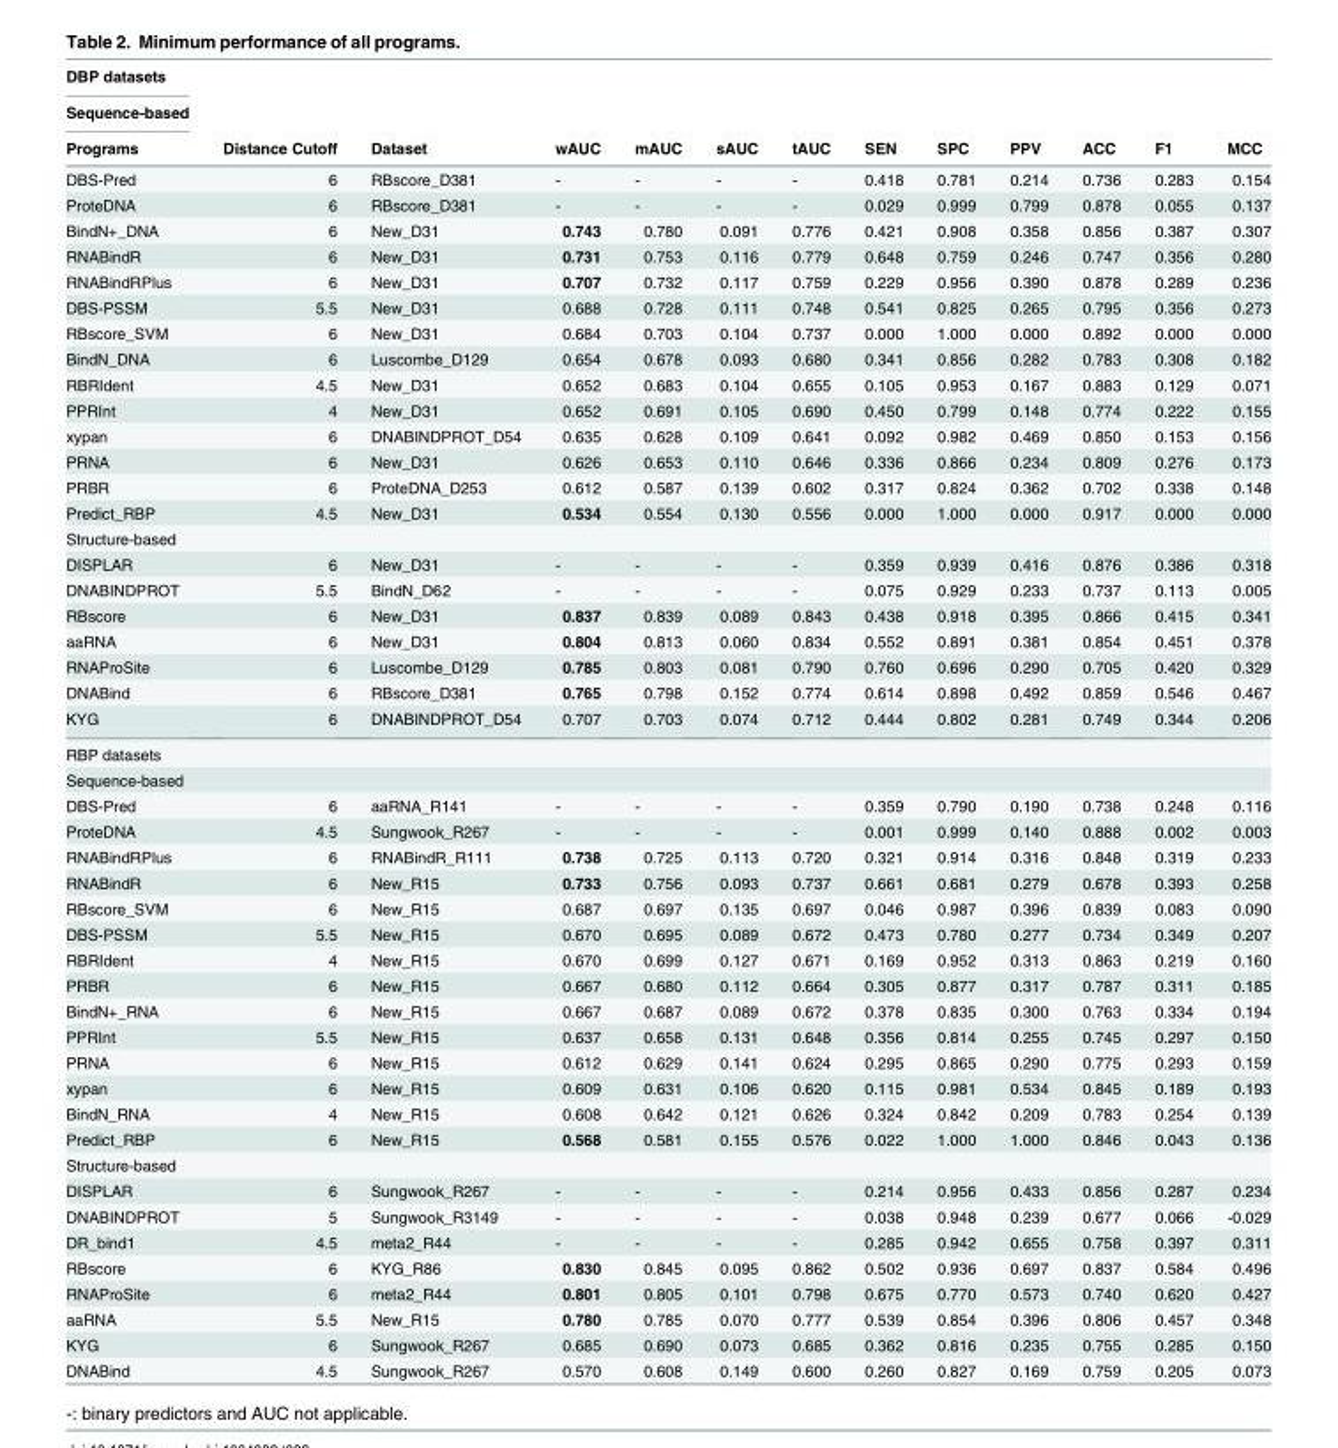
<table><thead><tr><td rowspan="3">DBP datasets Sequence-based Programs</td><td rowspan="3">Distance Cutoff</td><td rowspan="3">Dataset</td><td rowspan="3">wAUC</td><td rowspan="3">mAUC</td><td rowspan="3">sAUC</td><td rowspan="3">tAUC</td><td rowspan="3">SEN</td><td rowspan="3">SPC</td><td rowspan="3">PPV</td><td rowspan="3">ACC</td><td rowspan="3">F1</td><td rowspan="3">MCC</td></tr><tr></tr><tr></tr></thead><tbody><tr><td>DBS-Pred</td><td>6</td><td>RBscore_D381</td><td>-</td><td>-</td><td>-</td><td>-</td><td>0.418</td><td>0.781</td><td>0.214</td><td>0.736</td><td>0.283</td><td>0.154</td></tr><tr><td>ProteDNA</td><td>6</td><td>RBscore_D381</td><td>-</td><td>-</td><td>-</td><td>-</td><td>0.029</td><td>0.999</td><td>0.799</td><td>0.878</td><td>0.055</td><td>0.137</td></tr><tr><td>BindN+_DNA</td><td>6</td><td>New_D31</td><td>0.743</td><td>0.780</td><td>0.091</td><td>0.776</td><td>0.421</td><td>0.908</td><td>0.358</td><td>0.856</td><td>0.387</td><td>0.307</td></tr><tr><td>RNABindR</td><td>6</td><td>New_D31</td><td>0.731</td><td>0.753</td><td>0.116</td><td>0.779</td><td>0.648</td><td>0.759</td><td>0.246</td><td>0.747</td><td>0.356</td><td>0.280</td></tr><tr><td>RNABindRPlus</td><td>6</td><td>New_D31</td><td>0.707</td><td>0.732</td><td>0.117</td><td>0.759</td><td>0.229</td><td>0.956</td><td>0.390</td><td>0.878</td><td>0.289</td><td>0.236</td></tr><tr><td>DBS-PSSM</td><td>5.5</td><td>New_D31</td><td>0.688</td><td>0.728</td><td>0.111</td><td>0.748</td><td>0.541</td><td>0.825</td><td>0.265</td><td>0.795</td><td>0.356</td><td>0.273</td></tr><tr><td>RBscore_SVM</td><td>6</td><td>New_D31</td><td>0.684</td><td>0.703</td><td>0.104</td><td>0.737</td><td>0.000</td><td>1.000</td><td>0.000</td><td>0.892</td><td>0.000</td><td>0.000</td></tr><tr><td>BindN_DNA</td><td>6</td><td>Luscombe_D129</td><td>0.654</td><td>0.678</td><td>0.093</td><td>0.680</td><td>0.341</td><td>0.856</td><td>0.282</td><td>0.783</td><td>0.308</td><td>0.182</td></tr><tr><td>RBRIdent</td><td>4.5</td><td>New_D31</td><td>0.652</td><td>0.683</td><td>0.104</td><td>0.655</td><td>0.105</td><td>0.953</td><td>0.167</td><td>0.883</td><td>0.129</td><td>0.071</td></tr><tr><td>PPRInt</td><td>4</td><td>New_D31</td><td>0.652</td><td>0.691</td><td>0.105</td><td>0.690</td><td>0.450</td><td>0.799</td><td>0.148</td><td>0.774</td><td>0.222</td><td>0.155</td></tr><tr><td>xypan</td><td>6</td><td>DNABINDPROT_D54</td><td>0.635</td><td>0.628</td><td>0.109</td><td>0.641</td><td>0.092</td><td>0.982</td><td>0.469</td><td>0.850</td><td>0.153</td><td>0.156</td></tr><tr><td>PRNA</td><td>6</td><td>New_D31</td><td>0.626</td><td>0.653</td><td>0.110</td><td>0.646</td><td>0.336</td><td>0.866</td><td>0.234</td><td>0.809</td><td>0.276</td><td>0.173</td></tr><tr><td>PRBR</td><td>6</td><td>ProteDNA_D253</td><td>0.612</td><td>0.587</td><td>0.139</td><td>0.602</td><td>0.317</td><td>0.824</td><td>0.362</td><td>0.702</td><td>0.338</td><td>0.148</td></tr><tr><td>Predict_RBP</td><td>4.5</td><td>New_D31</td><td>0.534</td><td>0.554</td><td>0.130</td><td>0.556</td><td>0.000</td><td>1.000</td><td>0.000</td><td>0.917</td><td>0.000</td><td>0.000</td></tr><tr><td colspan="13">Structure-based</td></tr><tr><td>DISPLAR</td><td>6</td><td>New_D31</td><td>-</td><td>-</td><td>-</td><td>-</td><td>0.359</td><td>0.939</td><td>0.416</td><td>0.876</td><td>0.386</td><td>0.318</td></tr><tr><td>DNABINDPROT</td><td>5.5</td><td>BindN_D62</td><td>-</td><td>-</td><td>-</td><td>-</td><td>0.075</td><td>0.929</td><td>0.233</td><td>0.737</td><td>0.113</td><td>0.005</td></tr><tr><td>RBscore</td><td>6</td><td>New_D31</td><td>0.837</td><td>0.839</td><td>0.089</td><td>0.843</td><td>0.438</td><td>0.918</td><td>0.395</td><td>0.866</td><td>0.415</td><td>0.341</td></tr><tr><td>aaRNA</td><td>6</td><td>New_D31</td><td>0.804</td><td>0.813</td><td>0.060</td><td>0.834</td><td>0.552</td><td>0.891</td><td>0.381</td><td>0.854</td><td>0.451</td><td>0.378</td></tr><tr><td>RNAProSite</td><td>6</td><td>Luscombe_D129</td><td>0.785</td><td>0.803</td><td>0.081</td><td>0.790</td><td>0.760</td><td>0.696</td><td>0.290</td><td>0.705</td><td>0.420</td><td>0.329</td></tr><tr><td>DNABind</td><td>6</td><td>RBscore_D381</td><td>0.765</td><td>0.798</td><td>0.152</td><td>0.774</td><td>0.614</td><td>0.898</td><td>0.492</td><td>0.859</td><td>0.546</td><td>0.467</td></tr><tr><td>KYG</td><td>6</td><td>DNABINDPROT_D54</td><td>0.707</td><td>0.703</td><td>0.074</td><td>0.712</td><td>0.444</td><td>0.802</td><td>0.281</td><td>0.749</td><td>0.344</td><td>0.206</td></tr><tr><td colspan="13">RBP datasets</td></tr><tr><td colspan="13">Sequence-based</td></tr><tr><td>DBS-Pred</td><td>6</td><td>aaRNA_R141</td><td>-</td><td>-</td><td>-</td><td>-</td><td>0.359</td><td>0.790</td><td>0.190</td><td>0.738</td><td>0.248</td><td>0.116</td></tr><tr><td>ProteDNA</td><td>4.5</td><td>Sungwook_R267</td><td>-</td><td>-</td><td>-</td><td>-</td><td>0.001</td><td>0.999</td><td>0.140</td><td>0.888</td><td>0.002</td><td>0.003</td></tr><tr><td>RNABindRPlus</td><td>6</td><td>RNABindR_R111</td><td>0.738</td><td>0.725</td><td>0.113</td><td>0.720</td><td>0.321</td><td>0.914</td><td>0.316</td><td>0.848</td><td>0.319</td><td>0.233</td></tr><tr><td>RNABindR</td><td>6</td><td>New_R15</td><td>0.733</td><td>0.756</td><td>0.093</td><td>0.737</td><td>0.661</td><td>0.681</td><td>0.279</td><td>0.678</td><td>0.393</td><td>0.258</td></tr><tr><td>RBscore_SVM</td><td>6</td><td>New_R15</td><td>0.687</td><td>0.697</td><td>0.135</td><td>0.697</td><td>0.046</td><td>0.987</td><td>0.396</td><td>0.839</td><td>0.083</td><td>0.090</td></tr><tr><td>DBS-PSSM</td><td>5.5</td><td>New_R15</td><td>0.670</td><td>0.695</td><td>0.089</td><td>0.672</td><td>0.473</td><td>0.780</td><td>0.277</td><td>0.734</td><td>0.349</td><td>0.207</td></tr><tr><td>RBRIdent</td><td>4</td><td>New_R15</td><td>0.670</td><td>0.699</td><td>0.127</td><td>0.671</td><td>0.169</td><td>0.952</td><td>0.313</td><td>0.863</td><td>0.219</td><td>0.160</td></tr><tr><td>PRBR</td><td>6</td><td>New_R15</td><td>0.667</td><td>0.680</td><td>0.112</td><td>0.664</td><td>0.305</td><td>0.877</td><td>0.317</td><td>0.787</td><td>0.311</td><td>0.185</td></tr><tr><td>BindN+_RNA</td><td>6</td><td>New_R15</td><td>0.667</td><td>0.687</td><td>0.089</td><td>0.672</td><td>0.378</td><td>0.835</td><td>0.300</td><td>0.763</td><td>0.334</td><td>0.194</td></tr><tr><td>PPRInt</td><td>5.5</td><td>New_R15</td><td>0.637</td><td>0.658</td><td>0.131</td><td>0.648</td><td>0.356</td><td>0.814</td><td>0.255</td><td>0.745</td><td>0.297</td><td>0.150</td></tr><tr><td>PRNA</td><td>6</td><td>New_R15</td><td>0.612</td><td>0.629</td><td>0.141</td><td>0.624</td><td>0.295</td><td>0.865</td><td>0.290</td><td>0.775</td><td>0.293</td><td>0.159</td></tr><tr><td>xypan</td><td>6</td><td>New_R15</td><td>0.609</td><td>0.631</td><td>0.106</td><td>0.620</td><td>0.115</td><td>0.981</td><td>0.534</td><td>0.845</td><td>0.189</td><td>0.193</td></tr><tr><td>BindN_RNA</td><td>4</td><td>New_R15</td><td>0.608</td><td>0.642</td><td>0.121</td><td>0.626</td><td>0.324</td><td>0.842</td><td>0.209</td><td>0.783</td><td>0.254</td><td>0.139</td></tr><tr><td>Predict_RBP</td><td>6</td><td>New_R15</td><td>0.568</td><td>0.581</td><td>0.155</td><td>0.576</td><td>0.022</td><td>1.000</td><td>1.000</td><td>0.846</td><td>0.043</td><td>0.136</td></tr><tr><td colspan="13">Structure-based</td></tr><tr><td>DISPLAR</td><td>6</td><td>Sungwook_R267</td><td>-</td><td>-</td><td>-</td><td>-</td><td>0.214</td><td>0.956</td><td>0.433</td><td>0.856</td><td>0.287</td><td>0.234</td></tr><tr><td>DNABINDPROT</td><td>5</td><td>Sungwook_R3149</td><td>-</td><td>-</td><td>-</td><td>-</td><td>0.038</td><td>0.948</td><td>0.239</td><td>0.677</td><td>0.066</td><td>-0.029</td></tr><tr><td>DR_bind1</td><td>4.5</td><td>meta2_R44</td><td>-</td><td>-</td><td>-</td><td>-</td><td>0.285</td><td>0.942</td><td>0.655</td><td>0.758</td><td>0.397</td><td>0.311</td></tr><tr><td>RBscore</td><td>6</td><td>KYG_R86</td><td>0.830</td><td>0.845</td><td>0.095</td><td>0.862</td><td>0.502</td><td>0.936</td><td>0.697</td><td>0.837</td><td>0.584</td><td>0.496</td></tr><tr><td>RNAProSite</td><td>6</td><td>meta2_R44</td><td>0.801</td><td>0.805</td><td>0.101</td><td>0.798</td><td>0.675</td><td>0.770</td><td>0.573</td><td>0.740</td><td>0.620</td><td>0.427</td></tr><tr><td>aaRNA</td><td>5.5</td><td>New_R15</td><td>0.780</td><td>0.785</td><td>0.070</td><td>0.777</td><td>0.539</td><td>0.854</td><td>0.396</td><td>0.806</td><td>0.457</td><td>0.348</td></tr><tr><td>KYG</td><td>6</td><td>Sungwook_R267</td><td>0.685</td><td>0.690</td><td>0.073</td><td>0.685</td><td>0.362</td><td>0.816</td><td>0.235</td><td>0.755</td><td>0.285</td><td>0.150</td></tr><tr><td>DNABind</td><td>4.5</td><td>Sungwook_R267</td><td>0.570</td><td>0.608</td><td>0.149</td><td>0.600</td><td>0.260</td><td>0.827</td><td>0.169</td><td>0.759</td><td>0.205</td><td>0.073</td></tr></tbody></table>